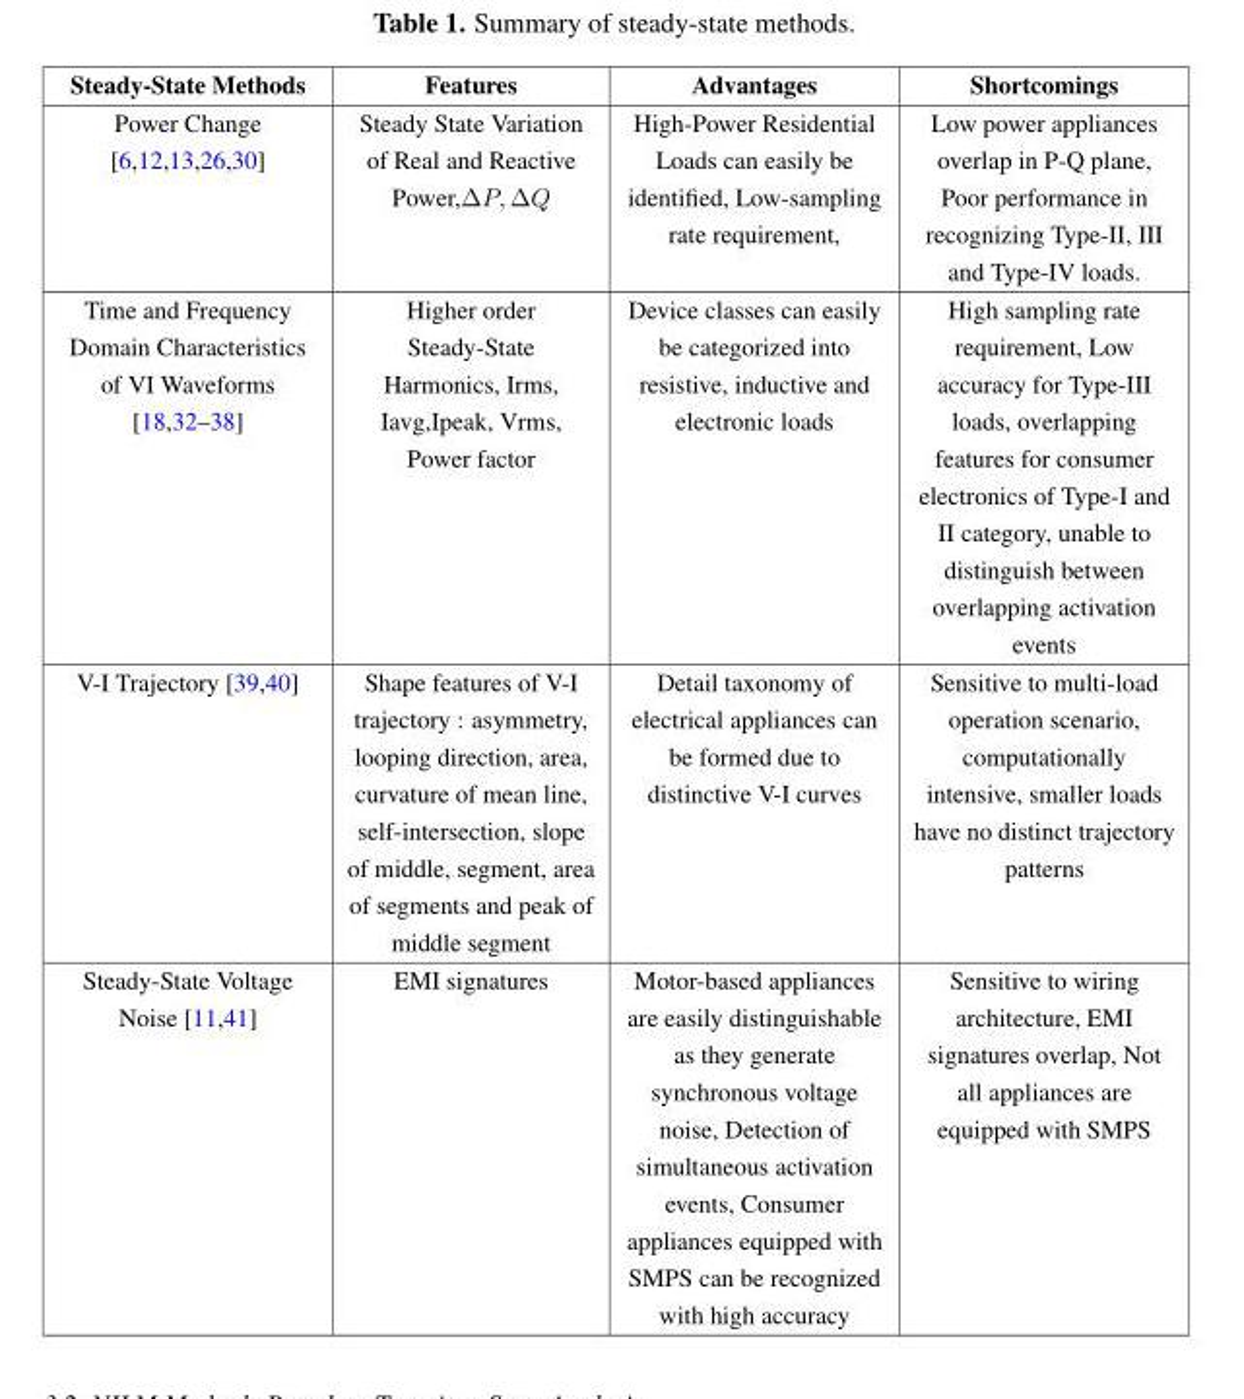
<table><thead><tr><td>Steady-State Methods</td><td>Features</td><td>Advantages</td><td>Shortcomings</td></tr></thead><tbody><tr><td>Power Change [6,12,13,26,30]</td><td>Steady State Variation of Real and Reactive Power,∆P, ∆Q</td><td>High-Power Residential Loads can easily be identified, Low-sampling rate requirement,</td><td>Low power appliances overlap in P-Q plane, Poor performance in recognizing Type-II, III and Type-IV loads.</td></tr><tr><td>Time and Frequency Domain Characteristics of VI Waveforms [18,32–38]</td><td>Higher order Steady-State Harmonics, Irms, Iavg,Ipeak, Vrms, Power factor</td><td>Device classes can easily be categorized into resistive, inductive and electronic loads</td><td>High sampling rate requirement, Low accuracy for Type-III loads, overlapping features for consumer electronics of Type-I and II category, unable to distinguish between overlapping activation events</td></tr><tr><td>V-I Trajectory [39,40]</td><td>Shape features of V-I trajectory : asymmetry, looping direction, area, curvature of mean line, self-intersection, slope of middle, segment, area of segments and peak of middle segment</td><td>Detail taxonomy of electrical appliances can be formed due to distinctive V-I curves</td><td>Sensitive to multi-load operation scenario, computationally intensive, smaller loads have no distinct trajectory patterns</td></tr><tr><td>Steady-State Voltage Noise [11,41]</td><td>EMI signatures</td><td>Motor-based appliances are easily distinguishable as they generate synchronous voltage noise, Detection of simultaneous activation events, Consumer appliances equipped with SMPS can be recognized with high accuracy</td><td>Sensitive to wiring architecture, EMI signatures overlap, Not all appliances are equipped with SMPS</td></tr></tbody></table>